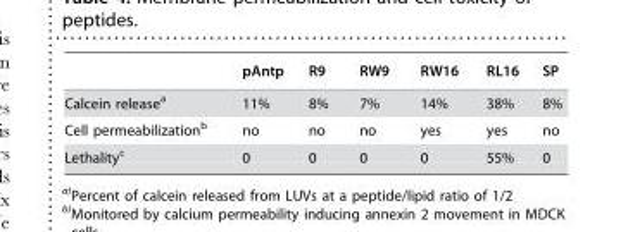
<table><thead><tr><td></td><td>pAntp</td><td>R9</td><td>RW9</td><td>RW16</td><td>RL16</td><td>SP</td></tr></thead><tbody><tr><td>Calcein release<sup>a</sup></td><td>11%</td><td>8%</td><td>7%</td><td>14%</td><td>38%</td><td>8%</td></tr><tr><td>Cell permeabilization<sup>b</sup></td><td>no</td><td>no</td><td>no</td><td>yes</td><td>yes</td><td>no</td></tr><tr><td>Lethality<sup>c</sup></td><td>0</td><td>0</td><td>0</td><td>0</td><td>55%</td><td>0</td></tr></tbody></table>